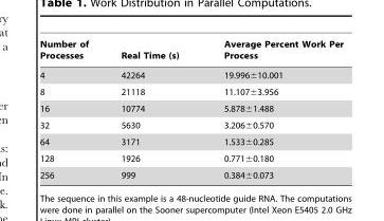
<table><thead><tr><td>Number of Processes</td><td>Real Time (s)</td><td>Average Percent Work Per Process</td></tr></thead><tbody><tr><td>4</td><td>42264</td><td>19.996±10.001</td></tr><tr><td>8</td><td>21118</td><td>11.107±3.956</td></tr><tr><td>16</td><td>10774</td><td>5.878±1.488</td></tr><tr><td>32</td><td>5630</td><td>3.206±0.570</td></tr><tr><td>64</td><td>3171</td><td>1.533±0.285</td></tr><tr><td>128</td><td>1926</td><td>0.771±0.180</td></tr><tr><td>256</td><td>999</td><td>0.384±0.073</td></tr></tbody></table>